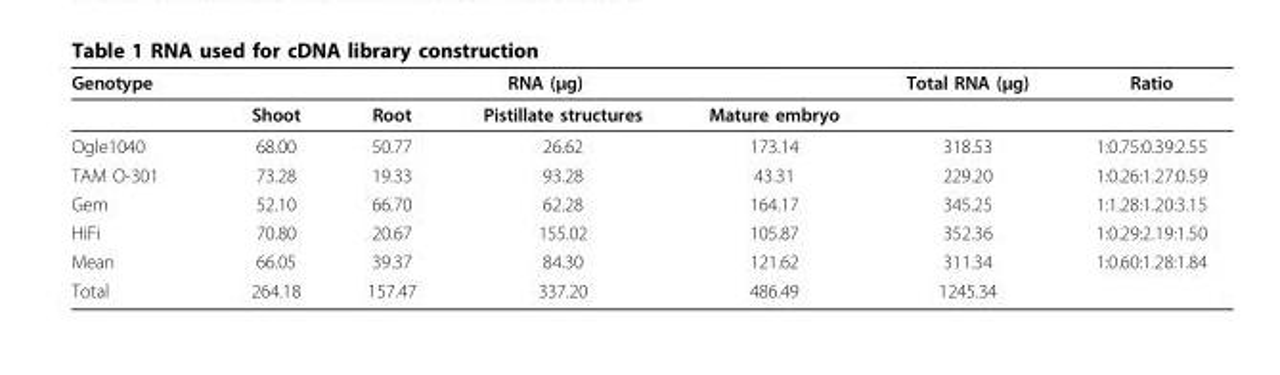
<table><thead><tr><td rowspan="2">Genotype</td><td colspan="4">RNA (μg)</td><td rowspan="2">Total RNA (μg)</td><td rowspan="2">Ratio</td></tr><tr><td>Shoot</td><td>Root</td><td>Pistillate structures</td><td>Mature embryo</td></tr></thead><tbody><tr><td>Ogle1040</td><td>68.00</td><td>50.77</td><td>26.62</td><td>173.14</td><td>318.53</td><td>1:0.75:0.39:2.55</td></tr><tr><td>TAM O-301</td><td>73.28</td><td>19.33</td><td>93.28</td><td>43.31</td><td>229.20</td><td>1:0.26:1.27:0.59</td></tr><tr><td>Gem</td><td>52.10</td><td>66.70</td><td>62.28</td><td>164.17</td><td>345.25</td><td>1:1.28:1.20:3.15</td></tr><tr><td>HiFi</td><td>70.80</td><td>20.67</td><td>155.02</td><td>105.87</td><td>352.36</td><td>1:0.29:2.19:1.50</td></tr><tr><td>Mean</td><td>66.05</td><td>39.37</td><td>84.30</td><td>121.62</td><td>311.34</td><td>1:0.60:1.28:1.84</td></tr><tr><td>Total</td><td>264.18</td><td>157.47</td><td>337.20</td><td>486.49</td><td>1245.34</td><td></td></tr></tbody></table>